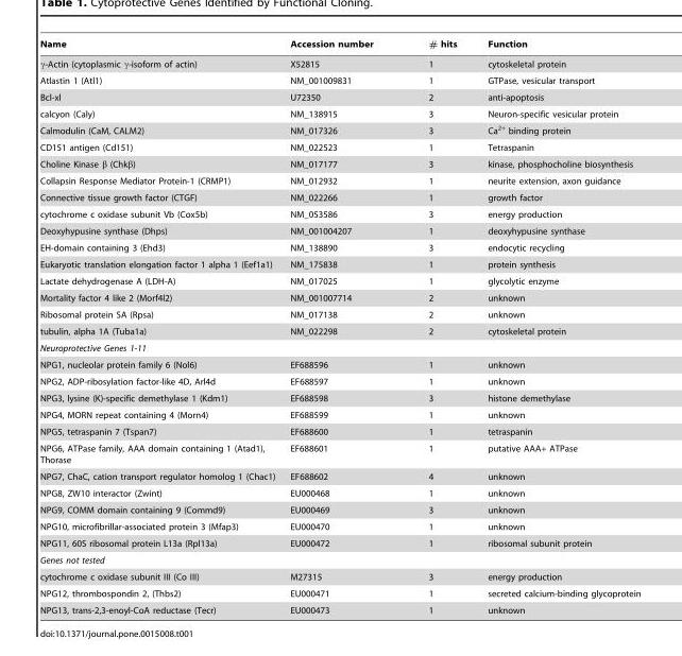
<table><thead><tr><td>Name</td><td>Accession number</td><td># hits</td><td>Function</td></tr></thead><tbody><tr><td>γ-Actin (cytoplasmic γ-isoform of actin)</td><td>X52815</td><td>1</td><td>cytoskeletal protein</td></tr><tr><td>Atlastin 1 (Atl1)</td><td>NM_001009831</td><td>1</td><td>GTPase, vesicular transport</td></tr><tr><td>Bcl-xl</td><td>U72350</td><td>2</td><td>anti-apoptosis</td></tr><tr><td>calcyon (Caly)</td><td>NM_138915</td><td>3</td><td>Neuron-specific vesicular protein</td></tr><tr><td>Calmodulin (CaM, CALM2)</td><td>NM_017326</td><td>3</td><td>Ca<sup>2+</sup> binding protein</td></tr><tr><td>CD151 antigen (Cd151)</td><td>NM_022523</td><td>1</td><td>Tetraspanin</td></tr><tr><td>Choline Kinase β (Chkβ)</td><td>NM_017177</td><td>3</td><td>kinase, phosphocholine biosynthesis</td></tr><tr><td>Collapsin Response Mediator Protein-1 (CRMP1)</td><td>NM_012932</td><td>1</td><td>neurite extension, axon guidance</td></tr><tr><td>Connective tissue growth factor (CTGF)</td><td>NM_022266</td><td>1</td><td>growth factor</td></tr><tr><td>cytochrome c oxidase subunit Vb (Cox5b)</td><td>NM_053586</td><td>3</td><td>energy production</td></tr><tr><td>Deoxyhypusine synthase (Dhps)</td><td>NM_001004207</td><td>1</td><td>deoxyhypusine synthase</td></tr><tr><td>EH-domain containing 3 (Ehd3)</td><td>NM_138890</td><td>3</td><td>endocytic recycling</td></tr><tr><td>Eukaryotic translation elongation factor 1 alpha 1 (Eef1a1)</td><td>NM_175838</td><td>1</td><td>protein synthesis</td></tr><tr><td>Lactate dehydrogenase A (LDH-A)</td><td>NM_017025</td><td>1</td><td>glycolytic enzyme</td></tr><tr><td>Mortality factor 4 like 2 (Morf4l2)</td><td>NM_001007714</td><td>2</td><td>unknown</td></tr><tr><td>Ribosomal protein SA (Rpsa)</td><td>NM_017138</td><td>2</td><td>unknown</td></tr><tr><td>tubulin, alpha 1A (Tuba1a)</td><td>NM_022298</td><td>2</td><td>cytoskeletal protein</td></tr><tr><td colspan="4">Neuroprotective Genes 1-11</td></tr><tr><td>NPG1, nucleolar protein family 6 (Nol6)</td><td>EF688596</td><td>1</td><td>unknown</td></tr><tr><td>NPG2, ADP-ribosylation factor-like 4D, Arl4d</td><td>EF688597</td><td>1</td><td>unknown</td></tr><tr><td>NPG3, lysine (K)-specific demethylase 1 (Kdm1)</td><td>EF688598</td><td>3</td><td>histone demethylase</td></tr><tr><td>NPG4, MORN repeat containing 4 (Morn4)</td><td>EF688599</td><td>1</td><td>unknown</td></tr><tr><td>NPG5, tetraspanin 7 (Tspan7)</td><td>EF688600</td><td>1</td><td>tetraspanin</td></tr><tr><td>NPG6, ATPase family, AAA domain containing 1 (Atad1), Thorase</td><td>EF688601</td><td>1</td><td>putative AAA+ ATPase</td></tr><tr><td>NPG7, ChaC, cation transport regulator homolog 1 (Chac1)</td><td>EF688602</td><td>4</td><td>unknown</td></tr><tr><td>NPG8, ZW10 interactor (Zwint)</td><td>EU000468</td><td>1</td><td>unknown</td></tr><tr><td>NPG9, COMM domain containing 9 (Commd9)</td><td>EU000469</td><td>3</td><td>unknown</td></tr><tr><td>NPG10, microfibrillar-associated protein 3 (Mfap3)</td><td>EU000470</td><td>1</td><td>unknown</td></tr><tr><td>NPG11, 60S ribosomal protein L13a (Rpl13a)</td><td>EU000472</td><td>1</td><td>ribosomal subunit protein</td></tr><tr><td colspan="4">Genes not tested</td></tr><tr><td>cytochrome c oxidase subunit III (Co III)</td><td>M27315</td><td>3</td><td>energy production</td></tr><tr><td>NPG12, thrombospondin 2, (Thbs2)</td><td>EU000471</td><td>1</td><td>secreted calcium-binding glycoprotein</td></tr><tr><td>NPG13, trans-2,3-enoyl-CoA reductase (Tecr)</td><td>EU000473</td><td>1</td><td>unknown</td></tr></tbody></table>